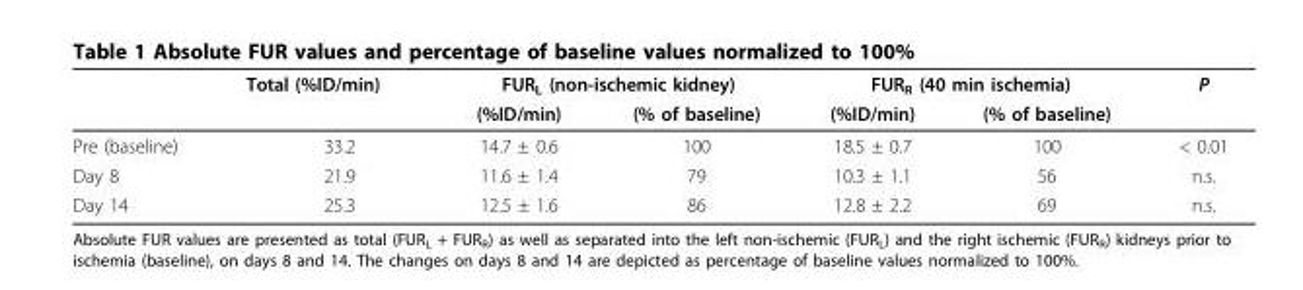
<table><thead><tr><td rowspan="2"></td><td rowspan="2">Total (%ID/min)</td><td colspan="2">FUR<sub>L</sub> (non-ischemic kidney)</td><td colspan="2">FUR<sub>R</sub> (40 min ischemia)</td><td rowspan="2">P</td></tr><tr><td>(%ID/min)</td><td>(% of baseline)</td><td>(%ID/min)</td><td>(% of baseline)</td></tr></thead><tbody><tr><td>Pre (baseline)</td><td>33.2</td><td>14.7 ± 0.6</td><td>100</td><td>18.5 ± 0.7</td><td>100</td><td>&lt; 0.01</td></tr><tr><td>Day 8</td><td>21.9</td><td>11.6 ± 1.4</td><td>79</td><td>10.3 ± 1.1</td><td>56</td><td>n.s.</td></tr><tr><td>Day 14</td><td>25.3</td><td>12.5 ± 1.6</td><td>86</td><td>12.8 ± 2.2</td><td>69</td><td>n.s.</td></tr></tbody></table>